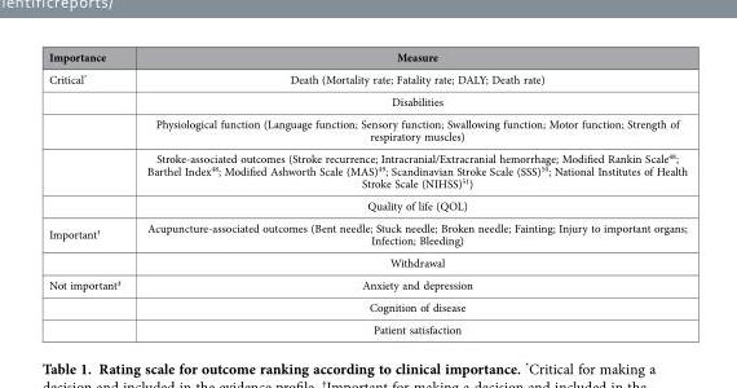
<table><thead><tr><td>Importance</td><td>Measure</td></tr></thead><tbody><tr><td rowspan="5">Critical*</td><td>Death (Mortality rate; Fatality rate; DALY; Death rate)</td></tr><tr><td>Disabilities</td></tr><tr><td>Physiological function (Language function; Sensory function; Swallowing function; Motor function; Strength of respiratory muscles)</td></tr><tr><td>Stroke-associated outcomes (Stroke recurrence; Intracranial/Extracranial hemorrhage; Modified Rankin Scale<sup>48</sup>; Barthel Index<sup>48</sup>; Modified Ashworth Scale (MAS)<sup>49</sup>; Scandinavian Stroke Scale (SSS)<sup>50</sup>; National Institutes of Health Stroke Scale (NIHSS)<sup>51</sup>)</td></tr><tr><td>Quality of life (QOL)</td></tr><tr><td rowspan="2">Important†</td><td>Acupuncture-associated outcomes (Bent needle; Stuck needle; Broken needle; Fainting; Injury to important organs; Infection; Bleeding)</td></tr><tr><td>Withdrawal</td></tr><tr><td rowspan="3">Not important‡</td><td>Anxiety and depression</td></tr><tr><td>Cognition of disease</td></tr><tr><td>Patient satisfaction</td></tr></tbody></table>